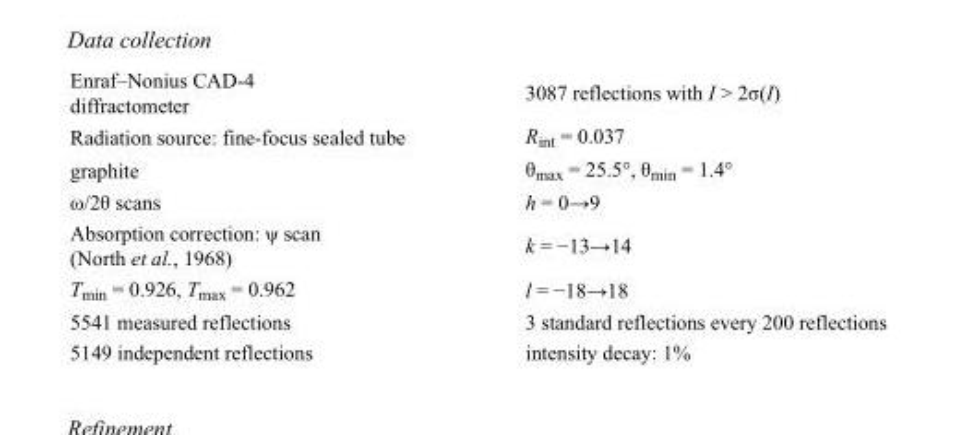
<table><tbody><tr><td>Enraf–Nonius CAD-4 diffractometer</td><td>3087 reflections with I &gt; 2σ(I)</td></tr><tr><td>Radiation source: fine-focus sealed tube</td><td>R<sub>int</sub> = 0.037</td></tr><tr><td>graphite</td><td>θ<sub>max</sub> = 25.5°, θ<sub>min</sub> = 1.4°</td></tr><tr><td>ω/2θ scans</td><td>h = 0→9</td></tr><tr><td>Absorption correction: ψ scan (North et al., 1968)</td><td>k = −13→14</td></tr><tr><td>T<sub>min</sub> = 0.926, T<sub>max</sub> = 0.962</td><td>l = −18→18</td></tr><tr><td>5541 measured reflections</td><td>3 standard reflections every 200 reflections</td></tr><tr><td>5149 independent reflections</td><td>intensity decay: 1%</td></tr></tbody></table>